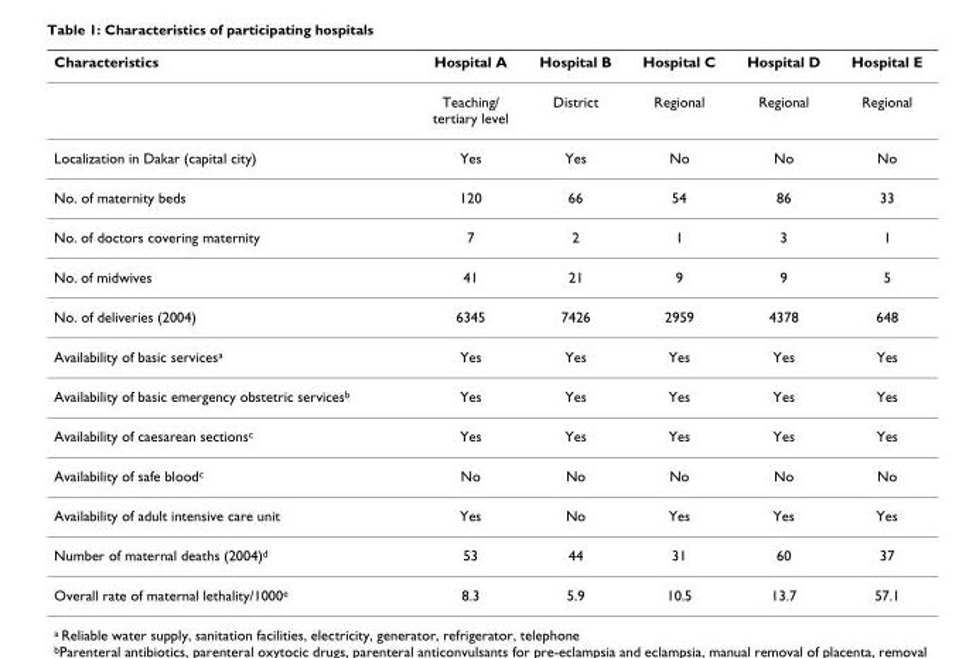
<table><thead><tr><td>Characteristics</td><td>Hospital A</td><td>Hospital B</td><td>Hospital C</td><td>Hospital D</td><td>Hospital E</td></tr></thead><tbody><tr><td></td><td>Teaching/ tertiary level</td><td>District</td><td>Regional</td><td>Regional</td><td>Regional</td></tr><tr><td>Localization in Dakar (capital city)</td><td>Yes</td><td>Yes</td><td>No</td><td>No</td><td>No</td></tr><tr><td>No. of maternity beds</td><td>120</td><td>66</td><td>54</td><td>86</td><td>33</td></tr><tr><td>No. of doctors covering maternity</td><td>7</td><td>2</td><td>1</td><td>3</td><td>1</td></tr><tr><td>No. of midwives</td><td>41</td><td>21</td><td>9</td><td>9</td><td>5</td></tr><tr><td>No. of deliveries (2004)</td><td>6345</td><td>7426</td><td>2959</td><td>4378</td><td>648</td></tr><tr><td>Availability of basic services<sup>a</sup></td><td>Yes</td><td>Yes</td><td>Yes</td><td>Yes</td><td>Yes</td></tr><tr><td>Availability of basic emergency obstetric services<sup>b</sup></td><td>Yes</td><td>Yes</td><td>Yes</td><td>Yes</td><td>Yes</td></tr><tr><td>Availability of caesarean sections<sup>c</sup></td><td>Yes</td><td>Yes</td><td>Yes</td><td>Yes</td><td>Yes</td></tr><tr><td>Availability of safe blood<sup>c</sup></td><td>No</td><td>No</td><td>No</td><td>No</td><td>No</td></tr><tr><td>Availability of adult intensive care unit</td><td>Yes</td><td>No</td><td>Yes</td><td>Yes</td><td>Yes</td></tr><tr><td>Number of maternal deaths (2004)<sup>d</sup></td><td>53</td><td>44</td><td>31</td><td>60</td><td>37</td></tr><tr><td>Overall rate of maternal lethality/1000<sup>e</sup></td><td>8.3</td><td>5.9</td><td>10.5</td><td>13.7</td><td>57.1</td></tr></tbody></table>